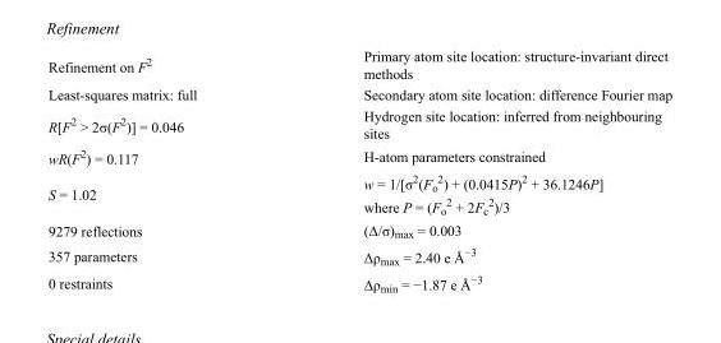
<table><tbody><tr><td>Refinement on F<sup>2</sup></td><td>Primary atom site location: structure-invariant direct methods</td></tr><tr><td>Least-squares matrix: full</td><td>Secondary atom site location: difference Fourier map</td></tr><tr><td>R[F<sup>2</sup> &gt; 2σ(F<sup>2</sup>)] = 0.046</td><td>Hydrogen site location: inferred from neighbouring sites</td></tr><tr><td>wR(F<sup>2</sup>) = 0.117</td><td>H-atom parameters constrained</td></tr><tr><td>S = 1.02</td><td>w = 1/[σ<sup>2</sup>(F<sub>o</sub> <sup>2</sup>) + (0.0415P)<sup>2</sup> + 36.1246P] where P = (F<sub>o</sub> <sup>2</sup> + 2F<sub>c</sub> <sup>2</sup>)/3</td></tr><tr><td>9279 reflections</td><td>(Δ/σ)<sub>max</sub> = 0.003</td></tr><tr><td>357 parameters</td><td>Δρ<sub>max</sub> = 2.40 e Å<sup>−3</sup></td></tr><tr><td>0 restraints</td><td>Δρ<sub>min</sub> = −1.87 e Å<sup>−3</sup></td></tr></tbody></table>